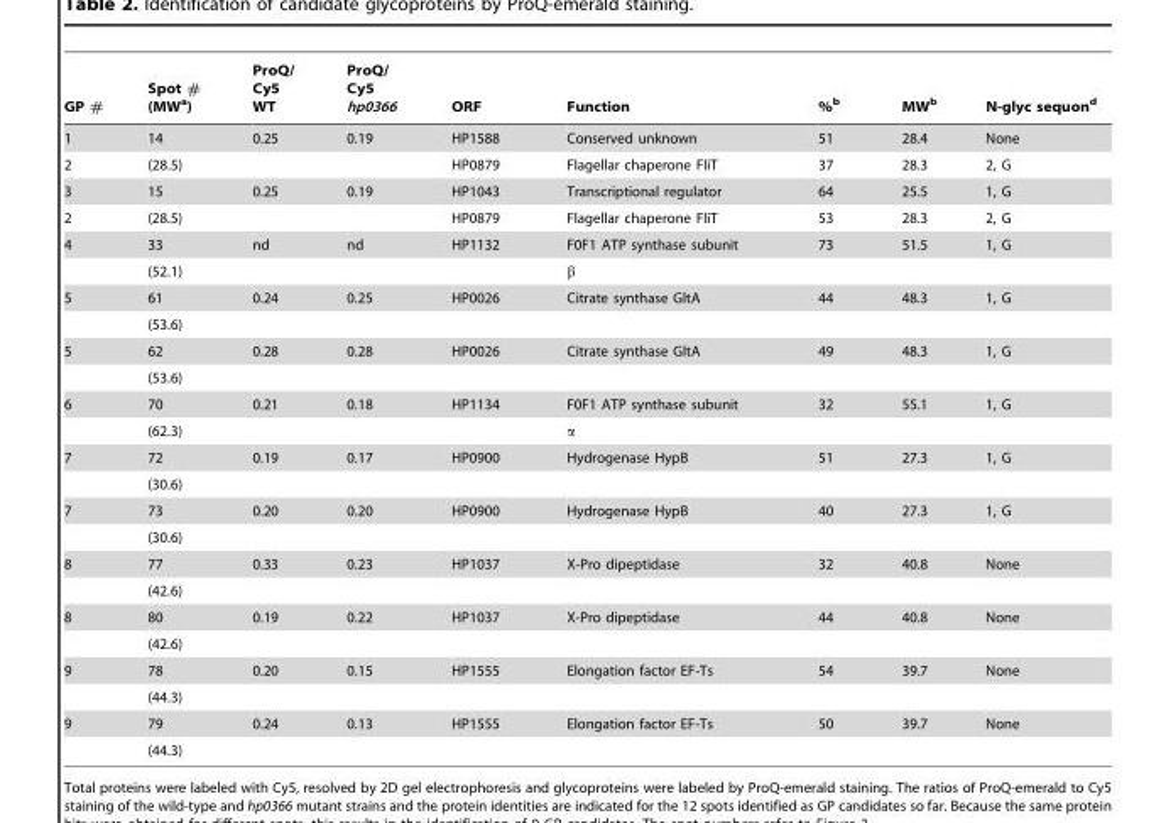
<table><thead><tr><td>GP #</td><td>Spot # (MW<sup>a</sup>)</td><td>ProQ/ Cy5 WT</td><td>ProQ/ Cy5 hp0366</td><td>ORF</td><td>Function</td><td>%<sup>b</sup></td><td>MW<sup>b</sup></td><td>N-glyc sequon<sup>d</sup></td></tr></thead><tbody><tr><td>1</td><td>14</td><td>0.25</td><td>0.19</td><td>HP1588</td><td>Conserved unknown</td><td>51</td><td>28.4</td><td>None</td></tr><tr><td>2</td><td>(28.5)</td><td></td><td></td><td>HP0879</td><td>Flagellar chaperone FliT</td><td>37</td><td>28.3</td><td>2, G</td></tr><tr><td>3</td><td>15</td><td>0.25</td><td>0.19</td><td>HP1043</td><td>Transcriptional regulator</td><td>64</td><td>25.5</td><td>1, G</td></tr><tr><td>2</td><td>(28.5)</td><td></td><td></td><td>HP0879</td><td>Flagellar chaperone FliT</td><td>53</td><td>28.3</td><td>2, G</td></tr><tr><td rowspan="2">4</td><td>33</td><td>nd</td><td>nd</td><td>HP1132</td><td>F0F1 ATP synthase subunit</td><td>73</td><td>51.5</td><td>1, G</td></tr><tr><td>(52.1)</td><td></td><td></td><td></td><td>β</td><td></td><td></td><td></td></tr><tr><td rowspan="2">5</td><td>61</td><td>0.24</td><td>0.25</td><td>HP0026</td><td>Citrate synthase GltA</td><td>44</td><td>48.3</td><td>1, G</td></tr><tr><td>(53.6)</td><td></td><td></td><td></td><td></td><td></td><td></td><td></td></tr><tr><td rowspan="2">5</td><td>62</td><td>0.28</td><td>0.28</td><td>HP0026</td><td>Citrate synthase GltA</td><td>49</td><td>48.3</td><td>1, G</td></tr><tr><td>(53.6)</td><td></td><td></td><td></td><td></td><td></td><td></td><td></td></tr><tr><td rowspan="2">6</td><td>70</td><td>0.21</td><td>0.18</td><td>HP1134</td><td>F0F1 ATP synthase subunit</td><td>32</td><td>55.1</td><td>1, G</td></tr><tr><td>(62.3)</td><td></td><td></td><td></td><td>α</td><td></td><td></td><td></td></tr><tr><td rowspan="2">7</td><td>72</td><td>0.19</td><td>0.17</td><td>HP0900</td><td>Hydrogenase HypB</td><td>51</td><td>27.3</td><td>1, G</td></tr><tr><td>(30.6)</td><td></td><td></td><td></td><td></td><td></td><td></td><td></td></tr><tr><td rowspan="2">7</td><td>73</td><td>0.20</td><td>0.20</td><td>HP0900</td><td>Hydrogenase HypB</td><td>40</td><td>27.3</td><td>1, G</td></tr><tr><td>(30.6)</td><td></td><td></td><td></td><td></td><td></td><td></td><td></td></tr><tr><td rowspan="2">8</td><td>77</td><td>0.33</td><td>0.23</td><td>HP1037</td><td>X-Pro dipeptidase</td><td>32</td><td>40.8</td><td>None</td></tr><tr><td>(42.6)</td><td></td><td></td><td></td><td></td><td></td><td></td><td></td></tr><tr><td rowspan="2">8</td><td>80</td><td>0.19</td><td>0.22</td><td>HP1037</td><td>X-Pro dipeptidase</td><td>44</td><td>40.8</td><td>None</td></tr><tr><td>(42.6)</td><td></td><td></td><td></td><td></td><td></td><td></td><td></td></tr><tr><td rowspan="2">9</td><td>78</td><td>0.20</td><td>0.15</td><td>HP1555</td><td>Elongation factor EF-Ts</td><td>54</td><td>39.7</td><td>None</td></tr><tr><td>(44.3)</td><td></td><td></td><td></td><td></td><td></td><td></td><td></td></tr><tr><td rowspan="2">9</td><td>79</td><td>0.24</td><td>0.13</td><td>HP1555</td><td>Elongation factor EF-Ts</td><td>50</td><td>39.7</td><td>None</td></tr><tr><td>(44.3)</td><td></td><td></td><td></td><td></td><td></td><td></td><td></td></tr></tbody></table>